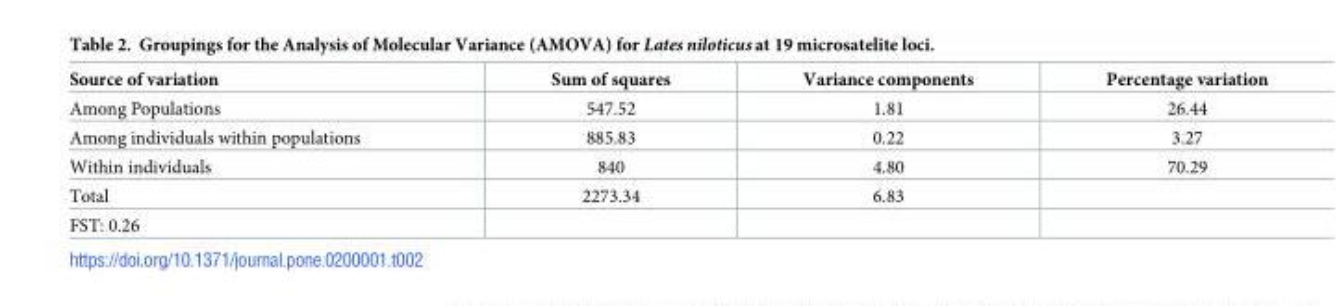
<table><thead><tr><td>Source of variation</td><td>Sum of squares</td><td>Variance components</td><td>Percentage variation</td></tr></thead><tbody><tr><td>Among Populations</td><td>547.52</td><td>1.81</td><td>26.44</td></tr><tr><td>Among individuals within populations</td><td>885.83</td><td>0.22</td><td>3.27</td></tr><tr><td>Within individuals</td><td>840</td><td>4.80</td><td>70.29</td></tr><tr><td>Total</td><td>2273.34</td><td>6.83</td><td></td></tr><tr><td>FST: 0.26</td><td></td><td></td><td></td></tr></tbody></table>